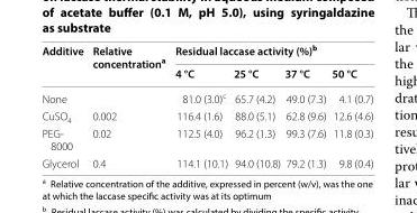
<table><thead><tr><td rowspan="2">Additive</td><td rowspan="2">Relative concentration<sup>a</sup></td><td colspan="4">Residual laccase activity (%)<sup>b</sup></td></tr><tr><td>4 °C</td><td>25 °C</td><td>37 °C</td><td>50 °C</td></tr></thead><tbody><tr><td>None</td><td></td><td>81.0 (3.0)<sup>c</sup></td><td>65.7 (4.2)</td><td>49.0 (7.3)</td><td>4.1 (0.7)</td></tr><tr><td>CuSO<sub>4</sub></td><td>0.002</td><td>116.4 (1.6)</td><td>88.0 (5.1)</td><td>62.8 (9.6)</td><td>12.6 (4.6)</td></tr><tr><td>PEG‑ 8000</td><td>0.02</td><td>112.5 (4.0)</td><td>96.2 (1.3)</td><td>99.3 (7.6)</td><td>11.8 (0.3)</td></tr><tr><td>Glycerol</td><td>0.4</td><td>114.1 (10.1)</td><td>94.0 (10.8)</td><td>79.2 (1.3)</td><td>9.8 (0.4)</td></tr></tbody></table>